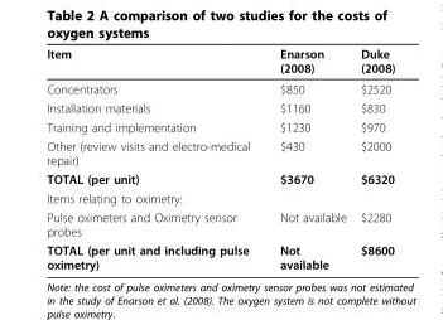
<table><thead><tr><td>Item</td><td>Enarson (2008)</td><td>Duke (2008)</td></tr></thead><tbody><tr><td>Concentrators</td><td>$850</td><td>$2520</td></tr><tr><td>Installation materials</td><td>$1160</td><td>$830</td></tr><tr><td>Training and implementation</td><td>$1230</td><td>$970</td></tr><tr><td>Other (review visits and electro-medical repair)</td><td>$430</td><td>$2000</td></tr><tr><td>TOTAL (per unit)</td><td>$3670</td><td>$6320</td></tr><tr><td colspan="3">Items relating to oximetry:</td></tr><tr><td>Pulse oximeters and Oximetry sensor probes</td><td>Not available</td><td>$2280</td></tr><tr><td>TOTAL (per unit and including pulse oximetry)</td><td>Not available</td><td>$8600</td></tr></tbody></table>